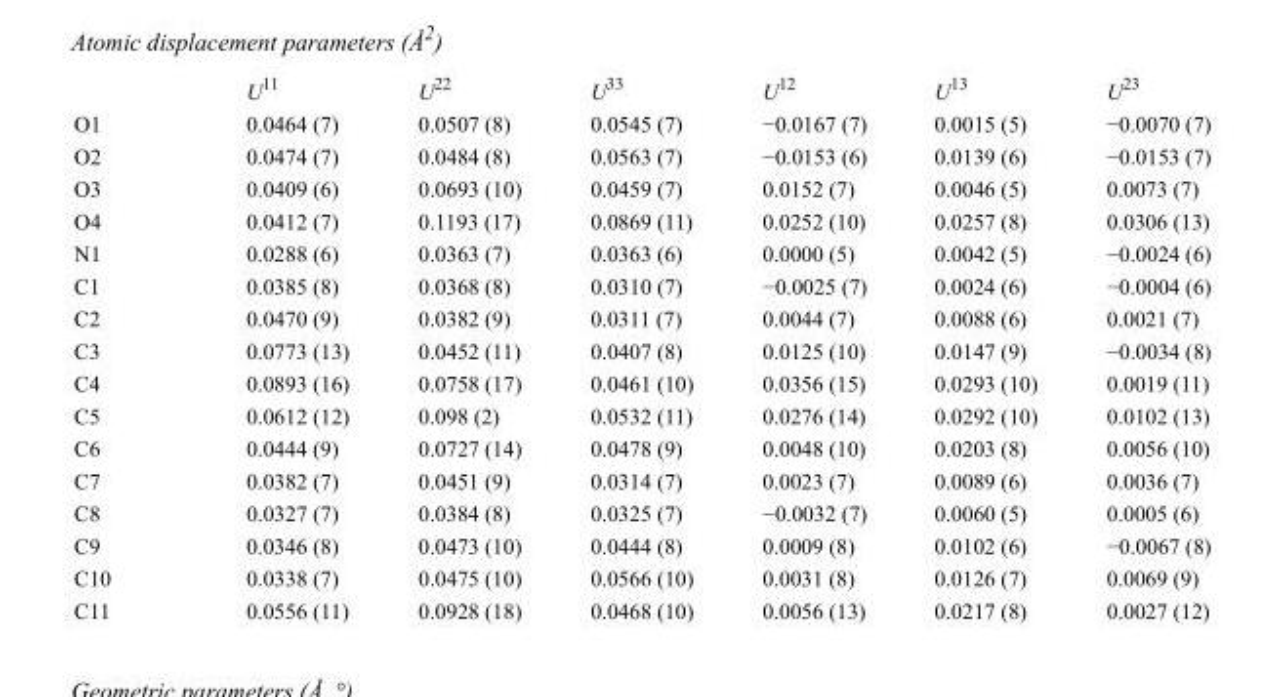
<table><thead><tr><td></td><td>U<sup>11</sup></td><td>U<sup>22</sup></td><td>U<sup>33</sup></td><td>U<sup>12</sup></td><td>U<sup>13</sup></td><td>U<sup>23</sup></td></tr></thead><tbody><tr><td>O1</td><td>0.0464 (7)</td><td>0.0507 (8)</td><td>0.0545 (7)</td><td>−0.0167 (7)</td><td>0.0015 (5)</td><td>−0.0070 (7)</td></tr><tr><td>O2</td><td>0.0474 (7)</td><td>0.0484 (8)</td><td>0.0563 (7)</td><td>−0.0153 (6)</td><td>0.0139 (6)</td><td>−0.0153 (7)</td></tr><tr><td>O3</td><td>0.0409 (6)</td><td>0.0693 (10)</td><td>0.0459 (7)</td><td>0.0152 (7)</td><td>0.0046 (5)</td><td>0.0073 (7)</td></tr><tr><td>O4</td><td>0.0412 (7)</td><td>0.1193 (17)</td><td>0.0869 (11)</td><td>0.0252 (10)</td><td>0.0257 (8)</td><td>0.0306 (13)</td></tr><tr><td>N1</td><td>0.0288 (6)</td><td>0.0363 (7)</td><td>0.0363 (6)</td><td>0.0000 (5)</td><td>0.0042 (5)</td><td>−0.0024 (6)</td></tr><tr><td>C1</td><td>0.0385 (8)</td><td>0.0368 (8)</td><td>0.0310 (7)</td><td>−0.0025 (7)</td><td>0.0024 (6)</td><td>−0.0004 (6)</td></tr><tr><td>C2</td><td>0.0470 (9)</td><td>0.0382 (9)</td><td>0.0311 (7)</td><td>0.0044 (7)</td><td>0.0088 (6)</td><td>0.0021 (7)</td></tr><tr><td>C3</td><td>0.0773 (13)</td><td>0.0452 (11)</td><td>0.0407 (8)</td><td>0.0125 (10)</td><td>0.0147 (9)</td><td>−0.0034 (8)</td></tr><tr><td>C4</td><td>0.0893 (16)</td><td>0.0758 (17)</td><td>0.0461 (10)</td><td>0.0356 (15)</td><td>0.0293 (10)</td><td>0.0019 (11)</td></tr><tr><td>C5</td><td>0.0612 (12)</td><td>0.098 (2)</td><td>0.0532 (11)</td><td>0.0276 (14)</td><td>0.0292 (10)</td><td>0.0102 (13)</td></tr><tr><td>C6</td><td>0.0444 (9)</td><td>0.0727 (14)</td><td>0.0478 (9)</td><td>0.0048 (10)</td><td>0.0203 (8)</td><td>0.0056 (10)</td></tr><tr><td>C7</td><td>0.0382 (7)</td><td>0.0451 (9)</td><td>0.0314 (7)</td><td>0.0023 (7)</td><td>0.0089 (6)</td><td>0.0036 (7)</td></tr><tr><td>C8</td><td>0.0327 (7)</td><td>0.0384 (8)</td><td>0.0325 (7)</td><td>−0.0032 (7)</td><td>0.0060 (5)</td><td>0.0005 (6)</td></tr><tr><td>C9</td><td>0.0346 (8)</td><td>0.0473 (10)</td><td>0.0444 (8)</td><td>0.0009 (8)</td><td>0.0102 (6)</td><td>−0.0067 (8)</td></tr><tr><td>C10</td><td>0.0338 (7)</td><td>0.0475 (10)</td><td>0.0566 (10)</td><td>0.0031 (8)</td><td>0.0126 (7)</td><td>0.0069 (9)</td></tr><tr><td>C11</td><td>0.0556 (11)</td><td>0.0928 (18)</td><td>0.0468 (10)</td><td>0.0056 (13)</td><td>0.0217 (8)</td><td>0.0027 (12)</td></tr></tbody></table>